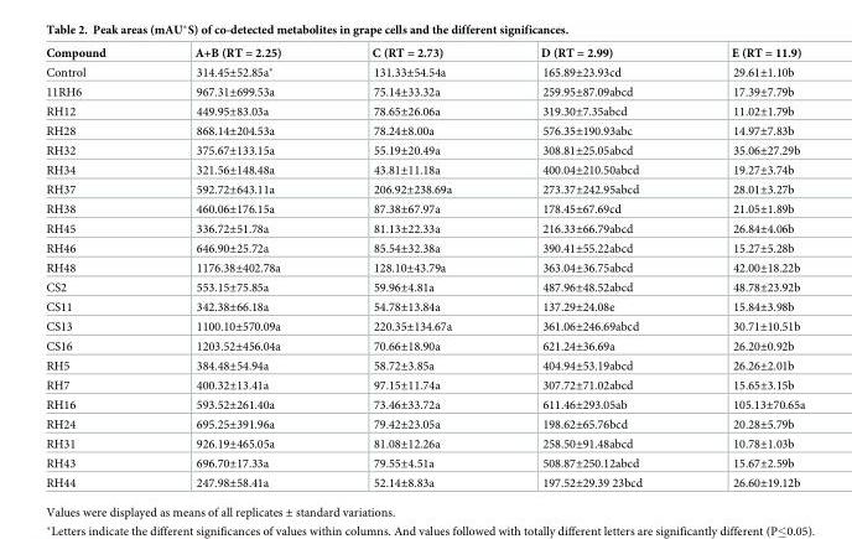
<table><thead><tr><td>Compound</td><td>A+B (RT = 2.25)</td><td>C (RT = 2.73)</td><td>D (RT = 2.99)</td><td>E (RT = 11.9)</td></tr></thead><tbody><tr><td>Control</td><td>314.45±52.85a*</td><td>131.33±54.54a</td><td>165.89±23.93cd</td><td>29.61±1.10b</td></tr><tr><td>11RH6</td><td>967.31±699.53a</td><td>75.14±33.32a</td><td>259.95±87.09abcd</td><td>17.39±7.79b</td></tr><tr><td>RH12</td><td>449.95±83.03a</td><td>78.65±26.06a</td><td>319.30±7.35abcd</td><td>11.02±1.79b</td></tr><tr><td>RH28</td><td>868.14±204.53a</td><td>78.24±8.00a</td><td>576.35±190.93abc</td><td>14.97±7.83b</td></tr><tr><td>RH32</td><td>375.67±133.15a</td><td>55.19±20.49a</td><td>308.81±25.05abcd</td><td>35.06±27.29b</td></tr><tr><td>RH34</td><td>321.56±148.48a</td><td>43.81±11.18a</td><td>400.04±210.50abcd</td><td>19.27±3.74b</td></tr><tr><td>RH37</td><td>592.72±643.11a</td><td>206.92±238.69a</td><td>273.37±242.95abcd</td><td>28.01±3.27b</td></tr><tr><td>RH38</td><td>460.06±176.15a</td><td>87.38±67.97a</td><td>178.45±67.69cd</td><td>21.05±1.89b</td></tr><tr><td>RH45</td><td>336.72±51.78a</td><td>81.13±22.33a</td><td>216.33±66.79abcd</td><td>26.84±4.06b</td></tr><tr><td>RH46</td><td>646.90±25.72a</td><td>85.54±32.38a</td><td>390.41±55.22abcd</td><td>15.27±5.28b</td></tr><tr><td>RH48</td><td>1176.38±402.78a</td><td>128.10±43.79a</td><td>363.04±36.75abcd</td><td>42.00±18.22b</td></tr><tr><td>CS2</td><td>553.15±75.85a</td><td>59.96±4.81a</td><td>487.96±48.52abcd</td><td>48.78±23.92b</td></tr><tr><td>CS11</td><td>342.38±66.18a</td><td>54.78±13.84a</td><td>137.29±24.08e</td><td>15.84±3.98b</td></tr><tr><td>CS13</td><td>1100.10±570.09a</td><td>220.35±134.67a</td><td>361.06±246.69abcd</td><td>30.71±10.51b</td></tr><tr><td>CS16</td><td>1203.52±456.04a</td><td>70.66±18.90a</td><td>621.24±36.69a</td><td>26.20±0.92b</td></tr><tr><td>RH5</td><td>384.48±54.94a</td><td>58.72±3.85a</td><td>404.94±53.19abcd</td><td>26.26±2.01b</td></tr><tr><td>RH7</td><td>400.32±13.41a</td><td>97.15±11.74a</td><td>307.72±71.02abcd</td><td>15.65±3.15b</td></tr><tr><td>RH16</td><td>593.52±261.40a</td><td>73.46±33.72a</td><td>611.46±293.05ab</td><td>105.13±70.65a</td></tr><tr><td>RH24</td><td>695.25±391.96a</td><td>79.42±23.05a</td><td>198.62±65.76bcd</td><td>20.28±5.79b</td></tr><tr><td>RH31</td><td>926.19±465.05a</td><td>81.08±12.26a</td><td>258.50±91.48abcd</td><td>10.78±1.03b</td></tr><tr><td>RH43</td><td>696.70±17.33a</td><td>79.55±4.51a</td><td>508.87±250.12abcd</td><td>15.67±2.59b</td></tr><tr><td>RH44</td><td>247.98±58.41a</td><td>52.14±8.83a</td><td>197.52±29.39 23bcd</td><td>26.60±19.12b</td></tr></tbody></table>